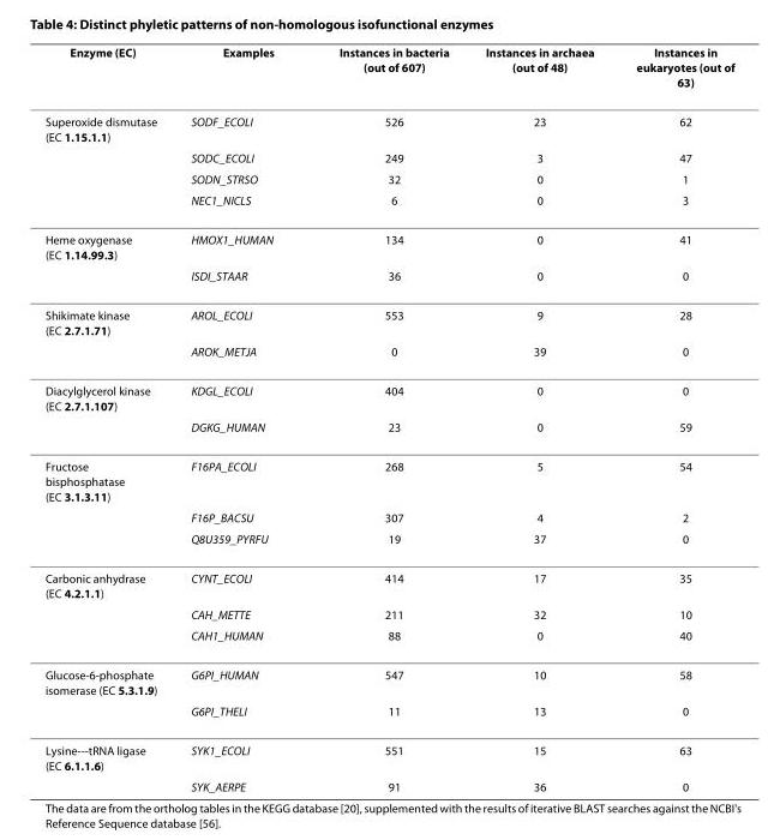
<table><thead><tr><td>Enzyme (EC)</td><td>Examples</td><td>Instances in bacteria (out of 607)</td><td>Instances in archaea (out of 48)</td><td>Instances in eukaryotes (out of 63)</td></tr></thead><tbody><tr><td rowspan="4">Superoxide dismutase (EC 1.15.1.1)</td><td>SODF_ECOLI</td><td>526</td><td>23</td><td>62</td></tr><tr><td>SODC_ECOLI</td><td>249</td><td>3</td><td>47</td></tr><tr><td>SODN_STRSO</td><td>32</td><td>0</td><td>1</td></tr><tr><td>NEC1_NICLS</td><td>6</td><td>0</td><td>3</td></tr><tr><td rowspan="2">Heme oxygenase (EC 1.14.99.3)</td><td>HMOX1_HUMAN</td><td>134</td><td>0</td><td>41</td></tr><tr><td>ISDI_STAAR</td><td>36</td><td>0</td><td>0</td></tr><tr><td rowspan="2">Shikimate kinase (EC 2.7.1.71)</td><td>AROL_ECOLI</td><td>553</td><td>9</td><td>28</td></tr><tr><td>AROK_METJA</td><td>0</td><td>39</td><td>0</td></tr><tr><td rowspan="2">Diacylglycerol kinase (EC 2.7.1.107)</td><td>KDGL_ECOLI</td><td>404</td><td>0</td><td>0</td></tr><tr><td>DGKG_HUMAN</td><td>23</td><td>0</td><td>59</td></tr><tr><td rowspan="3">Fructose bisphosphatase (EC 3.1.3.11)</td><td>F16PA_ECOLI</td><td>268</td><td>5</td><td>54</td></tr><tr><td>F16P_BACSU</td><td>307</td><td>4</td><td>2</td></tr><tr><td>Q8U359_PYRFU</td><td>19</td><td>37</td><td>0</td></tr><tr><td rowspan="3">Carbonic anhydrase (EC 4.2.1.1)</td><td>CYNT_ECOLI</td><td>414</td><td>17</td><td>35</td></tr><tr><td>CAH_METTE</td><td>211</td><td>32</td><td>10</td></tr><tr><td>CAH1_HUMAN</td><td>88</td><td>0</td><td>40</td></tr><tr><td rowspan="2">Glucose-6-phosphate isomerase (EC 5.3.1.9)</td><td>G6PI_HUMAN</td><td>547</td><td>10</td><td>58</td></tr><tr><td>G6PI_THELI</td><td>11</td><td>13</td><td>0</td></tr><tr><td rowspan="2">Lysine---tRNA ligase (EC 6.1.1.6)</td><td>SYK1_ECOLI</td><td>551</td><td>15</td><td>63</td></tr><tr><td>SYK_AERPE</td><td>91</td><td>36</td><td>0</td></tr></tbody></table>